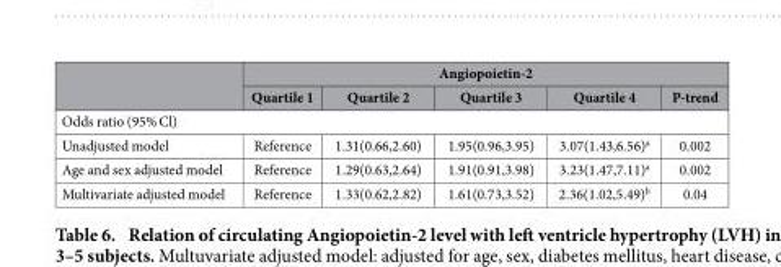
<table><thead><tr><td rowspan="2"></td><td colspan="5">Angiopoietin-2</td></tr><tr><td>Quartile 1</td><td>Quartile 2</td><td>Quartile 3</td><td>Quartile 4</td><td>P-trend</td></tr></thead><tbody><tr><td colspan="6">Odds ratio (95% Cl)</td></tr><tr><td>Unadjusted model</td><td>Reference</td><td>1.31(0.66,2.60)</td><td>1.95(0.96,3.95)</td><td>3.07(1.43,6.56)<sup>a</sup></td><td>0.002</td></tr><tr><td>Age and sex adjusted model</td><td>Reference</td><td>1.29(0.63,2.64)</td><td>1.91(0.91,3.98)</td><td>3.23(1.47,7.11)<sup>a</sup></td><td>0.002</td></tr><tr><td>Multivariate adjusted model</td><td>Reference</td><td>1.33(0.62,2.82)</td><td>1.61(0.73,3.52)</td><td>2.36(1.02,5.49)<sup>b</sup></td><td>0.04</td></tr></tbody></table>